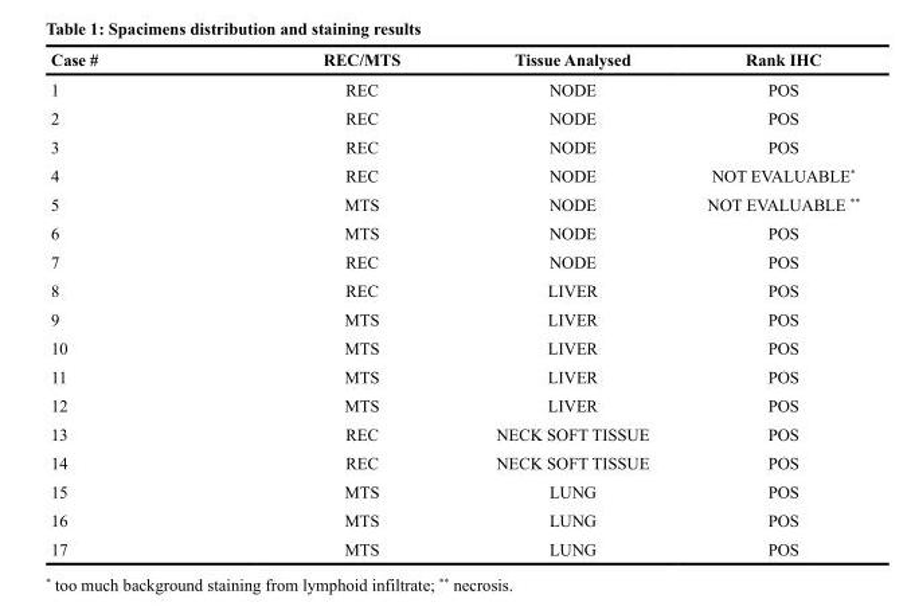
<table><thead><tr><td>Case #</td><td>REC/MTS</td><td>Tissue Analysed</td><td>Rank IHC</td></tr></thead><tbody><tr><td>1</td><td>REC</td><td>NODE</td><td>POS</td></tr><tr><td>2</td><td>REC</td><td>NODE</td><td>POS</td></tr><tr><td>3</td><td>REC</td><td>NODE</td><td>POS</td></tr><tr><td>4</td><td>REC</td><td>NODE</td><td>NOT EVALUABLE*</td></tr><tr><td>5</td><td>MTS</td><td>NODE</td><td>NOT EVALUABLE **</td></tr><tr><td>6</td><td>MTS</td><td>NODE</td><td>POS</td></tr><tr><td>7</td><td>REC</td><td>NODE</td><td>POS</td></tr><tr><td>8</td><td>REC</td><td>LIVER</td><td>POS</td></tr><tr><td>9</td><td>MTS</td><td>LIVER</td><td>POS</td></tr><tr><td>10</td><td>MTS</td><td>LIVER</td><td>POS</td></tr><tr><td>11</td><td>MTS</td><td>LIVER</td><td>POS</td></tr><tr><td>12</td><td>MTS</td><td>LIVER</td><td>POS</td></tr><tr><td>13</td><td>REC</td><td>NECK SOFT TISSUE</td><td>POS</td></tr><tr><td>14</td><td>REC</td><td>NECK SOFT TISSUE</td><td>POS</td></tr><tr><td>15</td><td>MTS</td><td>LUNG</td><td>POS</td></tr><tr><td>16</td><td>MTS</td><td>LUNG</td><td>POS</td></tr><tr><td>17</td><td>MTS</td><td>LUNG</td><td>POS</td></tr></tbody></table>